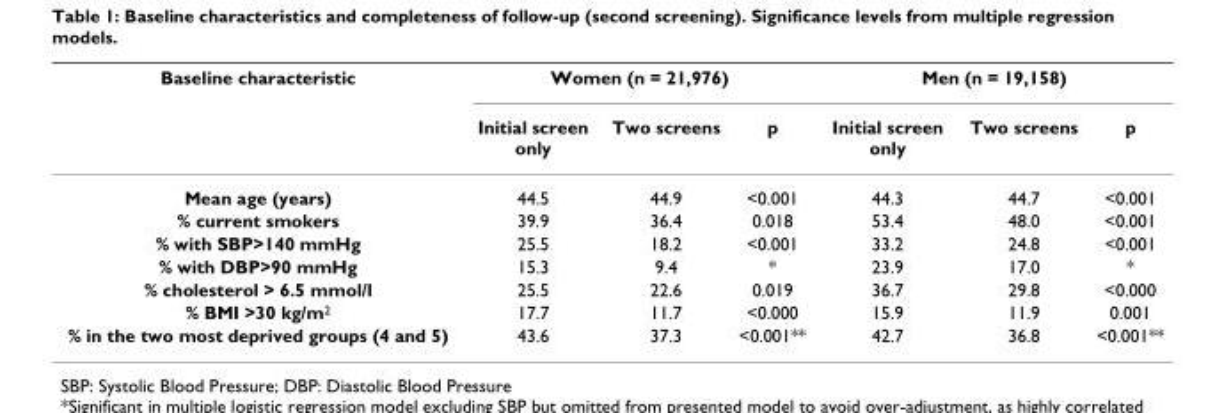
<table><thead><tr><td rowspan="2">Baseline characteristic</td><td colspan="3">Women (n = 21,976)</td><td colspan="3">Men (n = 19,158)</td></tr><tr><td>Initial screen only</td><td>Two screens</td><td>p</td><td>Initial screen only</td><td>Two screens</td><td>p</td></tr></thead><tbody><tr><td>Mean age (years)</td><td>44.5</td><td>44.9</td><td>&lt;0.001</td><td>44.3</td><td>44.7</td><td>&lt;0.001</td></tr><tr><td>% current smokers</td><td>39.9</td><td>36.4</td><td>0.018</td><td>53.4</td><td>48.0</td><td>&lt;0.001</td></tr><tr><td>% with SBP&gt;140 mmHg</td><td>25.5</td><td>18.2</td><td>&lt;0.001</td><td>33.2</td><td>24.8</td><td>&lt;0.001</td></tr><tr><td>% with DBP&gt;90 mmHg</td><td>15.3</td><td>9.4</td><td>*</td><td>23.9</td><td>17.0</td><td>*</td></tr><tr><td>% cholesterol &gt; 6.5 mmol/l</td><td>25.5</td><td>22.6</td><td>0.019</td><td>36.7</td><td>29.8</td><td>&lt;0.000</td></tr><tr><td>% BMI &gt;30 kg/m<sup>2</sup></td><td>17.7</td><td>11.7</td><td>&lt;0.000</td><td>15.9</td><td>11.9</td><td>0.001</td></tr><tr><td>% in the two most deprived groups (4 and 5)</td><td>43.6</td><td>37.3</td><td>&lt;0.001**</td><td>42.7</td><td>36.8</td><td>&lt;0.001**</td></tr></tbody></table>